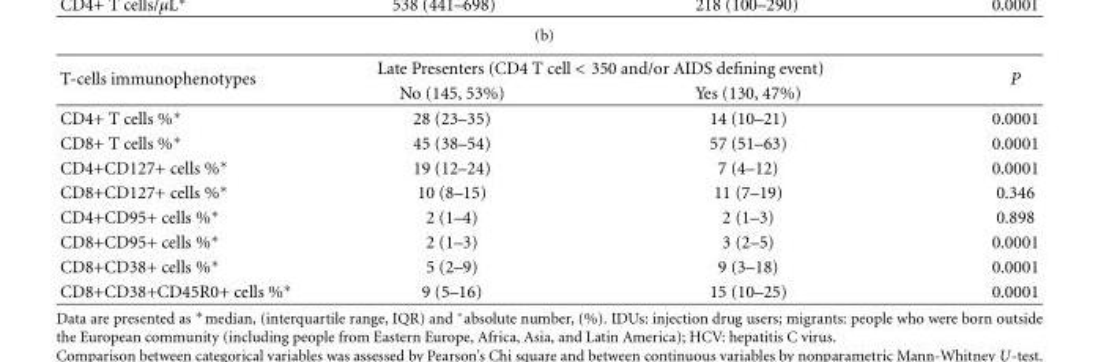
<table><tbody><tr><td rowspan="2">T-cells immunophenotypes</td><td colspan="2">Late Presenters (CD4 T cell &lt; 350 and/or AIDS defining event)</td><td rowspan="2">P</td></tr><tr><td>No (145, 53%)</td><td>Yes (130, 47%)</td></tr><tr><td>CD4+ T cells %∗</td><td>28 (23–35)</td><td>14 (10–21)</td><td>0.0001</td></tr><tr><td>CD8+ T cells %∗</td><td>45 (38–54)</td><td>57 (51–63)</td><td>0.0001</td></tr><tr><td>CD4+CD127+ cells %∗</td><td>19 (12–24)</td><td>7 (4–12)</td><td>0.0001</td></tr><tr><td>CD8+CD127+ cells %∗</td><td>10 (8–15)</td><td>11 (7–19)</td><td>0.346</td></tr><tr><td>CD4+CD95+ cells %∗</td><td>2 (1–4)</td><td>2 (1–3)</td><td>0.898</td></tr><tr><td>CD8+CD95+ cells %∗</td><td>2 (1–3)</td><td>3 (2–5)</td><td>0.0001</td></tr><tr><td>CD8+CD38+ cells %∗</td><td>5 (2–9)</td><td>9 (3–18)</td><td>0.0001</td></tr><tr><td>CD8+CD38+CD45R0+ cells %∗</td><td>9 (5–16)</td><td>15 (10–25)</td><td>0.0001</td></tr></tbody></table>